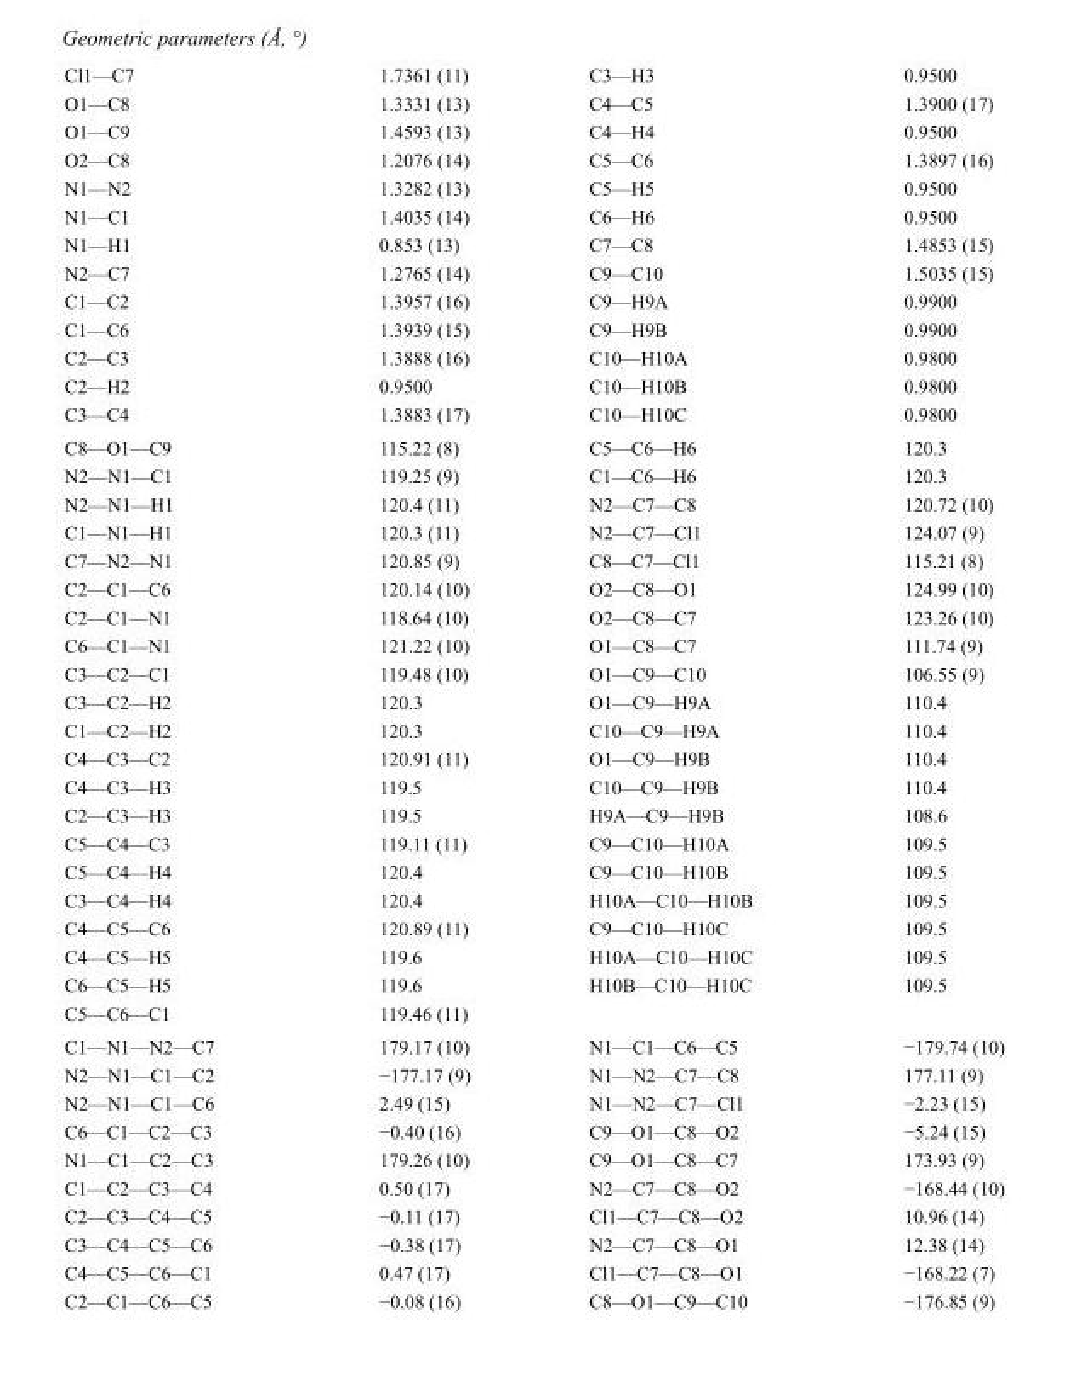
<table><tbody><tr><td>Cl1—C7</td><td>1.7361 (11)</td><td>C3—H3</td><td>0.9500</td></tr><tr><td>O1—C8</td><td>1.3331 (13)</td><td>C4—C5</td><td>1.3900 (17)</td></tr><tr><td>O1—C9</td><td>1.4593 (13)</td><td>C4—H4</td><td>0.9500</td></tr><tr><td>O2—C8</td><td>1.2076 (14)</td><td>C5—C6</td><td>1.3897 (16)</td></tr><tr><td>N1—N2</td><td>1.3282 (13)</td><td>C5—H5</td><td>0.9500</td></tr><tr><td>N1—C1</td><td>1.4035 (14)</td><td>C6—H6</td><td>0.9500</td></tr><tr><td>N1—H1</td><td>0.853 (13)</td><td>C7—C8</td><td>1.4853 (15)</td></tr><tr><td>N2—C7</td><td>1.2765 (14)</td><td>C9—C10</td><td>1.5035 (15)</td></tr><tr><td>C1—C2</td><td>1.3957 (16)</td><td>C9—H9A</td><td>0.9900</td></tr><tr><td>C1—C6</td><td>1.3939 (15)</td><td>C9—H9B</td><td>0.9900</td></tr><tr><td>C2—C3</td><td>1.3888 (16)</td><td>C10—H10A</td><td>0.9800</td></tr><tr><td>C2—H2</td><td>0.9500</td><td>C10—H10B</td><td>0.9800</td></tr><tr><td>C3—C4</td><td>1.3883 (17)</td><td>C10—H10C</td><td>0.9800</td></tr><tr><td>C8—O1—C9</td><td>115.22 (8)</td><td>C5—C6—H6</td><td>120.3</td></tr><tr><td>N2—N1—C1</td><td>119.25 (9)</td><td>C1—C6—H6</td><td>120.3</td></tr><tr><td>N2—N1—H1</td><td>120.4 (11)</td><td>N2—C7—C8</td><td>120.72 (10)</td></tr><tr><td>C1—N1—H1</td><td>120.3 (11)</td><td>N2—C7—Cl1</td><td>124.07 (9)</td></tr><tr><td>C7—N2—N1</td><td>120.85 (9)</td><td>C8—C7—Cl1</td><td>115.21 (8)</td></tr><tr><td>C2—C1—C6</td><td>120.14 (10)</td><td>O2—C8—O1</td><td>124.99 (10)</td></tr><tr><td>C2—C1—N1</td><td>118.64 (10)</td><td>O2—C8—C7</td><td>123.26 (10)</td></tr><tr><td>C6—C1—N1</td><td>121.22 (10)</td><td>O1—C8—C7</td><td>111.74 (9)</td></tr><tr><td>C3—C2—C1</td><td>119.48 (10)</td><td>O1—C9—C10</td><td>106.55 (9)</td></tr><tr><td>C3—C2—H2</td><td>120.3</td><td>O1—C9—H9A</td><td>110.4</td></tr><tr><td>C1—C2—H2</td><td>120.3</td><td>C10—C9—H9A</td><td>110.4</td></tr><tr><td>C4—C3—C2</td><td>120.91 (11)</td><td>O1—C9—H9B</td><td>110.4</td></tr><tr><td>C4—C3—H3</td><td>119.5</td><td>C10—C9—H9B</td><td>110.4</td></tr><tr><td>C2—C3—H3</td><td>119.5</td><td>H9A—C9—H9B</td><td>108.6</td></tr><tr><td>C5—C4—C3</td><td>119.11 (11)</td><td>C9—C10—H10A</td><td>109.5</td></tr><tr><td>C5—C4—H4</td><td>120.4</td><td>C9—C10—H10B</td><td>109.5</td></tr><tr><td>C3—C4—H4</td><td>120.4</td><td>H10A—C10—H10B</td><td>109.5</td></tr><tr><td>C4—C5—C6</td><td>120.89 (11)</td><td>C9—C10—H10C</td><td>109.5</td></tr><tr><td>C4—C5—H5</td><td>119.6</td><td>H10A—C10—H10C</td><td>109.5</td></tr><tr><td>C6—C5—H5</td><td>119.6</td><td>H10B—C10—H10C</td><td>109.5</td></tr><tr><td>C5—C6—C1</td><td>119.46 (11)</td><td></td><td></td></tr><tr><td>C1—N1—N2—C7</td><td>179.17 (10)</td><td>N1—C1—C6—C5</td><td>−179.74 (10)</td></tr><tr><td>N2—N1—C1—C2</td><td>−177.17 (9)</td><td>N1—N2—C7—C8</td><td>177.11 (9)</td></tr><tr><td>N2—N1—C1—C6</td><td>2.49 (15)</td><td>N1—N2—C7—Cl1</td><td>−2.23 (15)</td></tr><tr><td>C6—C1—C2—C3</td><td>−0.40 (16)</td><td>C9—O1—C8—O2</td><td>−5.24 (15)</td></tr><tr><td>N1—C1—C2—C3</td><td>179.26 (10)</td><td>C9—O1—C8—C7</td><td>173.93 (9)</td></tr><tr><td>C1—C2—C3—C4</td><td>0.50 (17)</td><td>N2—C7—C8—O2</td><td>−168.44 (10)</td></tr><tr><td>C2—C3—C4—C5</td><td>−0.11 (17)</td><td>Cl1—C7—C8—O2</td><td>10.96 (14)</td></tr><tr><td>C3—C4—C5—C6</td><td>−0.38 (17)</td><td>N2—C7—C8—O1</td><td>12.38 (14)</td></tr><tr><td>C4—C5—C6—C1</td><td>0.47 (17)</td><td>Cl1—C7—C8—O1</td><td>−168.22 (7)</td></tr><tr><td>C2—C1—C6—C5</td><td>−0.08 (16)</td><td>C8—O1—C9—C10</td><td>−176.85 (9)</td></tr></tbody></table>